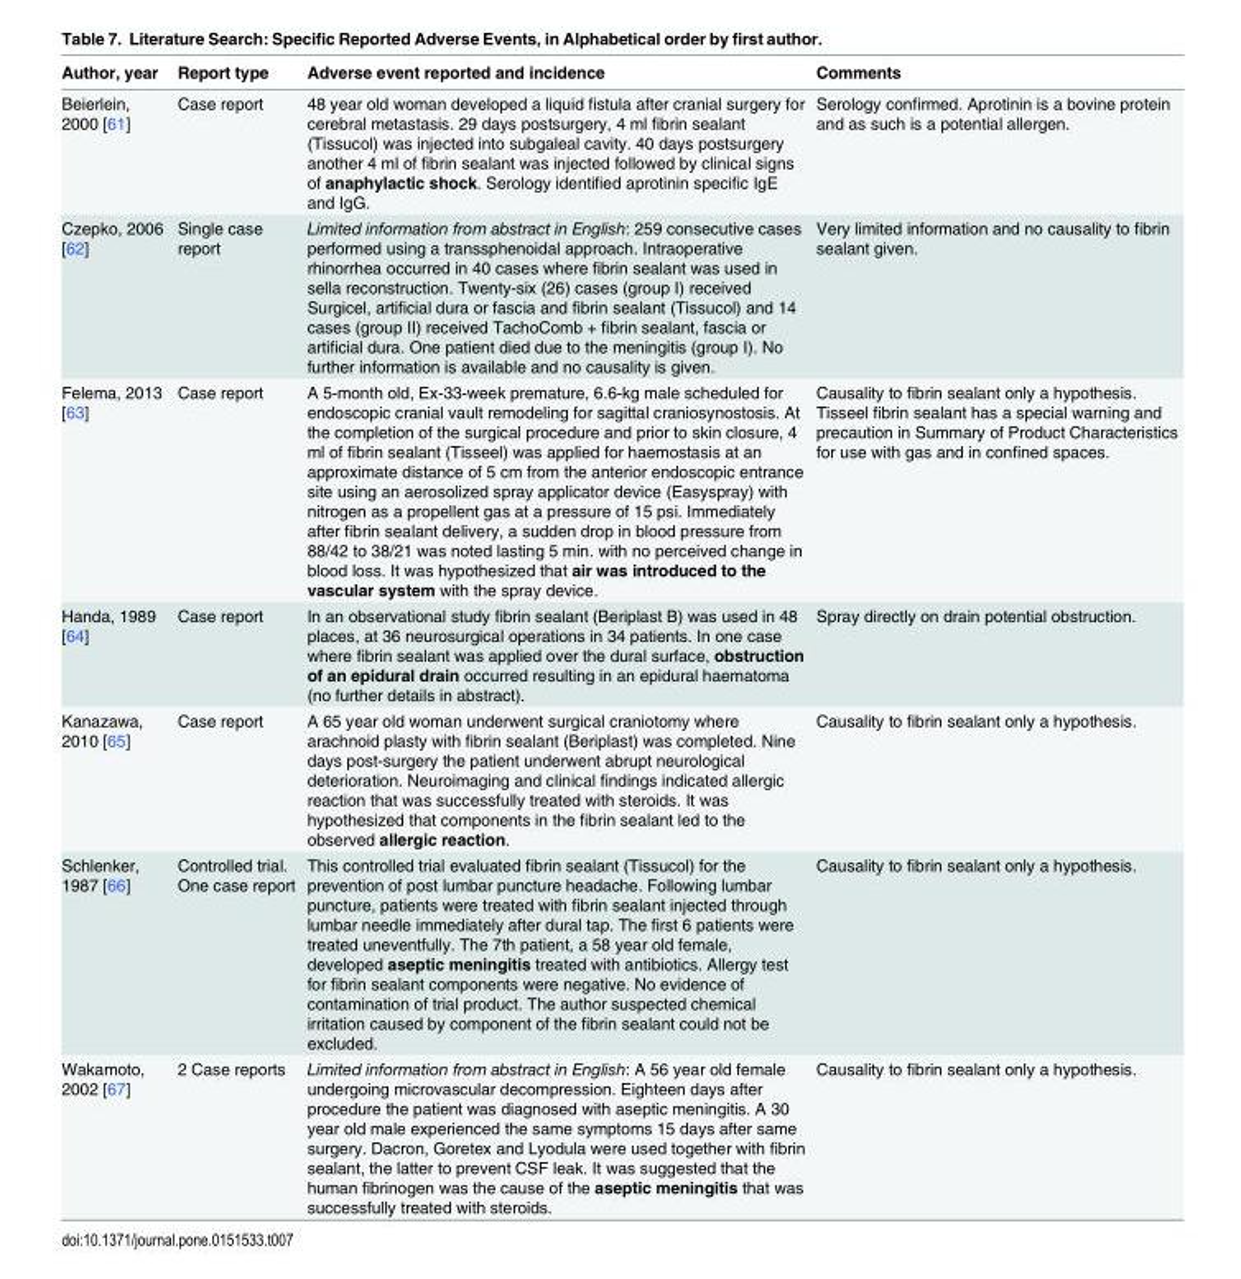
<table><thead><tr><td>Author, year</td><td>Report type</td><td>Adverse event reported and incidence</td><td>Comments</td></tr></thead><tbody><tr><td>Beierlein, 2000 [61]</td><td>Case report</td><td>48 year old woman developed a liquid fistula after cranial surgery for cerebral metastasis. 29 days postsurgery, 4 ml fibrin sealant (Tissucol) was injected into subgaleal cavity. 40 days postsurgery another 4 ml of fibrin sealant was injected followed by clinical signs of anaphylactic shock. Serology identified aprotinin specific IgE and IgG.</td><td>Serology confirmed. Aprotinin is a bovine protein and as such is a potential allergen.</td></tr><tr><td>Czepko, 2006 [62]</td><td>Single case report</td><td>Limited information from abstract in English: 259 consecutive cases performed using a transsphenoidal approach. Intraoperative rhinorrhea occurred in 40 cases where fibrin sealant was used in sella reconstruction. Twenty-six (26) cases (group I) received Surgicel, artificial dura or fascia and fibrin sealant (Tissucol) and 14 cases (group II) received TachoComb + fibrin sealant, fascia or artificial dura. One patient died due to the meningitis (group I). No further information is available and no causality is given.</td><td>Very limited information and no causality to fibrin sealant given.</td></tr><tr><td>Felema, 2013 [63]</td><td>Case report</td><td>A 5-month old, Ex-33-week premature, 6.6-kg male scheduled for endoscopic cranial vault remodeling for sagittal craniosynostosis. At the completion of the surgical procedure and prior to skin closure, 4 ml of fibrin sealant (Tisseel) was applied for haemostasis at an approximate distance of 5 cm from the anterior endoscopic entrance site using an aerosolized spray applicator device (Easyspray) with nitrogen as a propellent gas at a pressure of 15 psi. Immediately after fibrin sealant delivery, a sudden drop in blood pressure from 88/42 to 38/21 was noted lasting 5 min. with no perceived change in blood loss. It was hypothesized that air was introduced to the vascular system with the spray device.</td><td>Causality to fibrin sealant only a hypothesis. Tisseel fibrin sealant has a special warning and precaution in Summary of Product Characteristics for use with gas and in confined spaces.</td></tr><tr><td>Handa, 1989 [64]</td><td>Case report</td><td>In an observational study fibrin sealant (Beriplast B) was used in 48 places, at 36 neurosurgical operations in 34 patients. In one case where fibrin sealant was applied over the dural surface, obstruction of an epidural drain occurred resulting in an epidural haematoma (no further details in abstract).</td><td>Spray directly on drain potential obstruction.</td></tr><tr><td>Kanazawa, 2010 [65]</td><td>Case report</td><td>A 65 year old woman underwent surgical craniotomy where arachnoid plasty with fibrin sealant (Beriplast) was completed. Nine days post-surgery the patient underwent abrupt neurological deterioration. Neuroimaging and clinical findings indicated allergic reaction that was successfully treated with steroids. It was hypothesized that components in the fibrin sealant led to the observed allergic reaction.</td><td>Causality to fibrin sealant only a hypothesis.</td></tr><tr><td>Schlenker, 1987 [66]</td><td>Controlled trial. One case report</td><td>This controlled trial evaluated fibrin sealant (Tissucol) for the prevention of post lumbar puncture headache. Following lumbar puncture, patients were treated with fibrin sealant injected through lumbar needle immediately after dural tap. The first 6 patients were treated uneventfully. The 7th patient, a 58 year old female, developed aseptic meningitis treated with antibiotics. Allergy test for fibrin sealant components were negative. No evidence of contamination of trial product. The author suspected chemical irritation caused by component of the fibrin sealant could not be excluded.</td><td>Causality to fibrin sealant only a hypothesis.</td></tr><tr><td>Wakamoto, 2002 [67]</td><td>2 Case reports</td><td>Limited information from abstract in English: A 56 year old female undergoing microvascular decompression. Eighteen days after procedure the patient was diagnosed with aseptic meningitis. A 30 year old male experienced the same symptoms 15 days after same surgery. Dacron, Goretex and Lyodula were used together with fibrin sealant, the latter to prevent CSF leak. It was suggested that the human fibrinogen was the cause of the aseptic meningitis that was successfully treated with steroids.</td><td>Causality to fibrin sealant only a hypothesis.</td></tr></tbody></table>